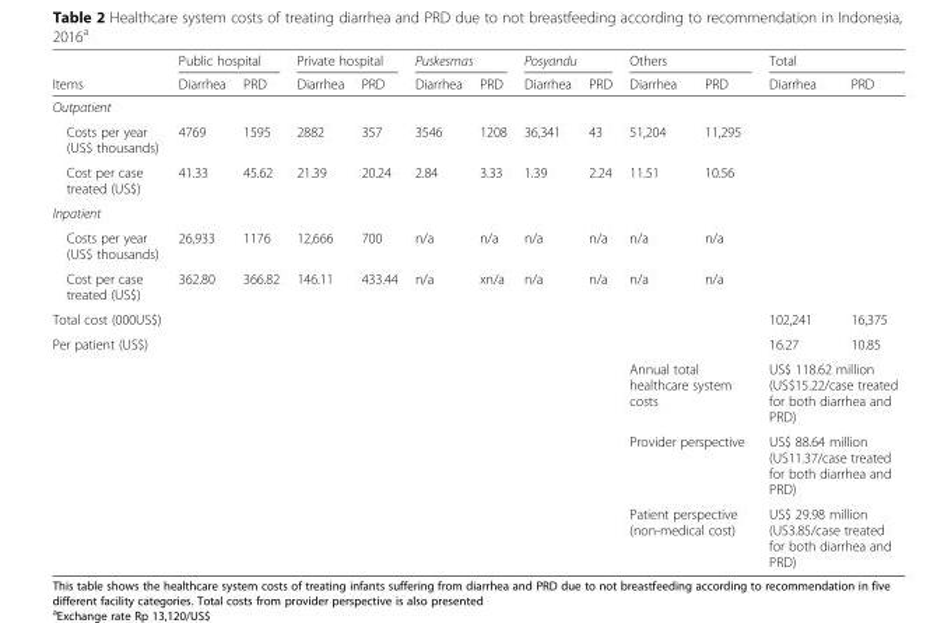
<table><thead><tr><td rowspan="2">Items</td><td colspan="2">Public hospital</td><td colspan="2">Private hospital</td><td colspan="2">Puskesmas</td><td colspan="2">Posyandu</td><td colspan="2">Others</td><td colspan="2">Total</td></tr><tr><td>Diarrhea</td><td>PRD</td><td>Diarrhea</td><td>PRD</td><td>Diarrhea</td><td>PRD</td><td>Diarrhea</td><td>PRD</td><td>Diarrhea</td><td>PRD</td><td>Diarrhea</td><td>PRD</td></tr></thead><tbody><tr><td colspan="13">Outpatient</td></tr><tr><td>Costs per year (US$ thousands)</td><td>4769</td><td>1595</td><td>2882</td><td>357</td><td>3546</td><td>1208</td><td>36,341</td><td>43</td><td>51,204</td><td>11,295</td><td></td><td></td></tr><tr><td>Cost per case treated (US$)</td><td>41.33</td><td>45.62</td><td>21.39</td><td>20.24</td><td>2.84</td><td>3.33</td><td>1.39</td><td>2.24</td><td>11.51</td><td>10.56</td><td></td><td></td></tr><tr><td colspan="13">Inpatient</td></tr><tr><td>Costs per year (US$ thousands)</td><td>26,933</td><td>1176</td><td>12,666</td><td>700</td><td>n/a</td><td>n/a</td><td>n/a</td><td>n/a</td><td>n/a</td><td>n/a</td><td></td><td></td></tr><tr><td>Cost per case treated (US$)</td><td>362.80</td><td>366.82</td><td>146.11</td><td>433.44</td><td>n/a</td><td>xn/a</td><td>n/a</td><td>n/a</td><td>n/a</td><td>n/a</td><td></td><td></td></tr><tr><td>Total cost (000US$)</td><td></td><td></td><td></td><td></td><td></td><td></td><td></td><td></td><td></td><td></td><td>102,241</td><td>16,375</td></tr><tr><td rowspan="4">Per patient (US$)</td><td></td><td></td><td></td><td></td><td></td><td></td><td></td><td></td><td></td><td></td><td>16.27</td><td>10.85</td></tr><tr><td></td><td></td><td></td><td></td><td></td><td></td><td></td><td></td><td colspan="2">Annual total healthcare system costs</td><td colspan="2">US$ 118.62 million (US$15.22/case treated for both diarrhea and PRD)</td></tr><tr><td></td><td></td><td></td><td></td><td></td><td></td><td></td><td></td><td colspan="2">Provider perspective</td><td colspan="2">US$ 88.64 million (US11.37/case treated for both diarrhea and PRD)</td></tr><tr><td></td><td></td><td></td><td></td><td></td><td></td><td></td><td></td><td colspan="2">Patient perspective (non-medical cost)</td><td colspan="2">US$ 29.98 million (US3.85/case treated for both diarrhea and PRD)</td></tr></tbody></table>